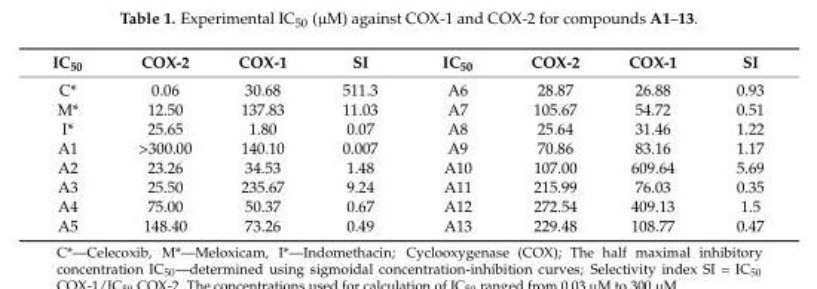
<table><thead><tr><td>IC<sub>50</sub></td><td>COX-2</td><td>COX-1</td><td>SI</td><td>IC<sub>50</sub></td><td>COX-2</td><td>COX-1</td><td>SI</td></tr></thead><tbody><tr><td>C*</td><td>0.06</td><td>30.68</td><td>511.3</td><td>A6</td><td>28.87</td><td>26.88</td><td>0.93</td></tr><tr><td>M*</td><td>12.50</td><td>137.83</td><td>11.03</td><td>A7</td><td>105.67</td><td>54.72</td><td>0.51</td></tr><tr><td>I*</td><td>25.65</td><td>1.80</td><td>0.07</td><td>A8</td><td>25.64</td><td>31.46</td><td>1.22</td></tr><tr><td>A1</td><td>&gt;300.00</td><td>140.10</td><td>0.007</td><td>A9</td><td>70.86</td><td>83.16</td><td>1.17</td></tr><tr><td>A2</td><td>23.26</td><td>34.53</td><td>1.48</td><td>A10</td><td>107.00</td><td>609.64</td><td>5.69</td></tr><tr><td>A3</td><td>25.50</td><td>235.67</td><td>9.24</td><td>A11</td><td>215.99</td><td>76.03</td><td>0.35</td></tr><tr><td>A4</td><td>75.00</td><td>50.37</td><td>0.67</td><td>A12</td><td>272.54</td><td>409.13</td><td>1.5</td></tr><tr><td>A5</td><td>148.40</td><td>73.26</td><td>0.49</td><td>A13</td><td>229.48</td><td>108.77</td><td>0.47</td></tr></tbody></table>